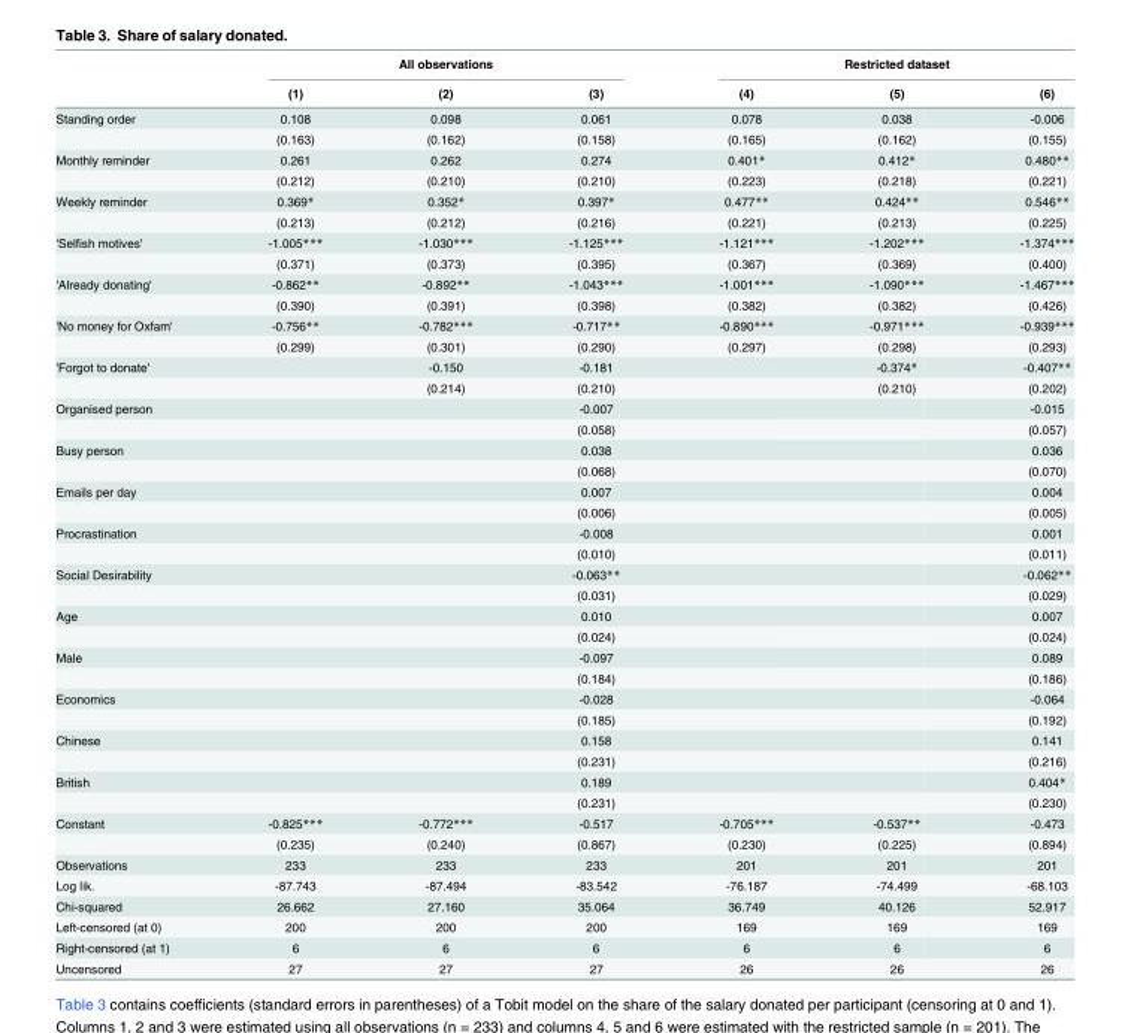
<table><thead><tr><td rowspan="2"></td><td colspan="3">All observations</td><td colspan="3">Restricted dataset</td></tr><tr><td>(1)</td><td>(2)</td><td>(3)</td><td>(4)</td><td>(5)</td><td>(6)</td></tr></thead><tbody><tr><td rowspan="2">Standing order</td><td>0.108</td><td>0.098</td><td>0.061</td><td>0.078</td><td>0.038</td><td>-0.006</td></tr><tr><td>(0.163)</td><td>(0.162)</td><td>(0.158)</td><td>(0.165)</td><td>(0.162)</td><td>(0.155)</td></tr><tr><td rowspan="2">Monthly reminder</td><td>0.261</td><td>0.262</td><td>0.274</td><td>0.401*</td><td>0.412*</td><td>0.480**</td></tr><tr><td>(0.212)</td><td>(0.210)</td><td>(0.210)</td><td>(0.223)</td><td>(0.218)</td><td>(0.221)</td></tr><tr><td rowspan="2">Weekly reminder</td><td>0.369*</td><td>0.352*</td><td>0.397*</td><td>0.477**</td><td>0.424**</td><td>0.546**</td></tr><tr><td>(0.213)</td><td>(0.212)</td><td>(0.216)</td><td>(0.221)</td><td>(0.213)</td><td>(0.225)</td></tr><tr><td rowspan="2">&#x27;Selfish motives&#x27;</td><td>-1.005***</td><td>-1.030***</td><td>-1.125***</td><td>-1.121***</td><td>-1.202***</td><td>-1.374***</td></tr><tr><td>(0.371)</td><td>(0.373)</td><td>(0.395)</td><td>(0.367)</td><td>(0.369)</td><td>(0.400)</td></tr><tr><td rowspan="2">&#x27;Already donating&#x27;</td><td>-0.862**</td><td>-0.892**</td><td>-1.043***</td><td>-1.001***</td><td>-1.090***</td><td>-1.467***</td></tr><tr><td>(0.390)</td><td>(0.391)</td><td>(0.398)</td><td>(0.382)</td><td>(0.382)</td><td>(0.426)</td></tr><tr><td rowspan="2">&#x27;No money for Oxfam&#x27;</td><td>-0.756**</td><td>-0.782***</td><td>-0.717**</td><td>-0.890***</td><td>-0.971***</td><td>-0.939***</td></tr><tr><td>(0.299)</td><td>(0.301)</td><td>(0.290)</td><td>(0.297)</td><td>(0.298)</td><td>(0.293)</td></tr><tr><td rowspan="2">&#x27;Forgot to donate&#x27;</td><td></td><td>-0.150</td><td>-0.181</td><td></td><td>-0.374*</td><td>-0.407**</td></tr><tr><td></td><td>(0.214)</td><td>(0.210)</td><td></td><td>(0.210)</td><td>(0.202)</td></tr><tr><td rowspan="2">Organised person</td><td></td><td></td><td>-0.007</td><td></td><td></td><td>-0.015</td></tr><tr><td></td><td></td><td>(0.058)</td><td></td><td></td><td>(0.057)</td></tr><tr><td rowspan="2">Busy person</td><td></td><td></td><td>0.038</td><td></td><td></td><td>0.036</td></tr><tr><td></td><td></td><td>(0.068)</td><td></td><td></td><td>(0.070)</td></tr><tr><td rowspan="2">Emails per day</td><td></td><td></td><td>0.007</td><td></td><td></td><td>0.004</td></tr><tr><td></td><td></td><td>(0.006)</td><td></td><td></td><td>(0.005)</td></tr><tr><td rowspan="2">Procrastination</td><td></td><td></td><td>-0.008</td><td></td><td></td><td>0.001</td></tr><tr><td></td><td></td><td>(0.010)</td><td></td><td></td><td>(0.011)</td></tr><tr><td rowspan="2">Social Desirability</td><td></td><td></td><td>-0.063**</td><td></td><td></td><td>-0.062**</td></tr><tr><td></td><td></td><td>(0.031)</td><td></td><td></td><td>(0.029)</td></tr><tr><td rowspan="2">Age</td><td></td><td></td><td>0.010</td><td></td><td></td><td>0.007</td></tr><tr><td></td><td></td><td>(0.024)</td><td></td><td></td><td>(0.024)</td></tr><tr><td rowspan="2">Male</td><td></td><td></td><td>-0.097</td><td></td><td></td><td>0.089</td></tr><tr><td></td><td></td><td>(0.184)</td><td></td><td></td><td>(0.186)</td></tr><tr><td rowspan="2">Economics</td><td></td><td></td><td>-0.028</td><td></td><td></td><td>-0.064</td></tr><tr><td></td><td></td><td>(0.185)</td><td></td><td></td><td>(0.192)</td></tr><tr><td rowspan="2">Chinese</td><td></td><td></td><td>0.158</td><td></td><td></td><td>0.141</td></tr><tr><td></td><td></td><td>(0.231)</td><td></td><td></td><td>(0.216)</td></tr><tr><td rowspan="2">British</td><td></td><td></td><td>0.189</td><td></td><td></td><td>0.404*</td></tr><tr><td></td><td></td><td>(0.231)</td><td></td><td></td><td>(0.230)</td></tr><tr><td rowspan="2">Constant</td><td>-0.825***</td><td>-0.772***</td><td>-0.517</td><td>-0.705***</td><td>-0.537**</td><td>-0.473</td></tr><tr><td>(0.235)</td><td>(0.240)</td><td>(0.867)</td><td>(0.230)</td><td>(0.225)</td><td>(0.894)</td></tr><tr><td>Observations</td><td>233</td><td>233</td><td>233</td><td>201</td><td>201</td><td>201</td></tr><tr><td>Log lik.</td><td>-87.743</td><td>-87.494</td><td>-83.542</td><td>-76.187</td><td>-74.499</td><td>-68.103</td></tr><tr><td>Chi-squared</td><td>26.662</td><td>27.160</td><td>35.064</td><td>36.749</td><td>40.126</td><td>52.917</td></tr><tr><td>Left-censored (at 0)</td><td>200</td><td>200</td><td>200</td><td>169</td><td>169</td><td>169</td></tr><tr><td>Right-censored (at 1)</td><td>6</td><td>6</td><td>6</td><td>6</td><td>6</td><td>6</td></tr><tr><td>Uncensored</td><td>27</td><td>27</td><td>27</td><td>26</td><td>26</td><td>26</td></tr></tbody></table>